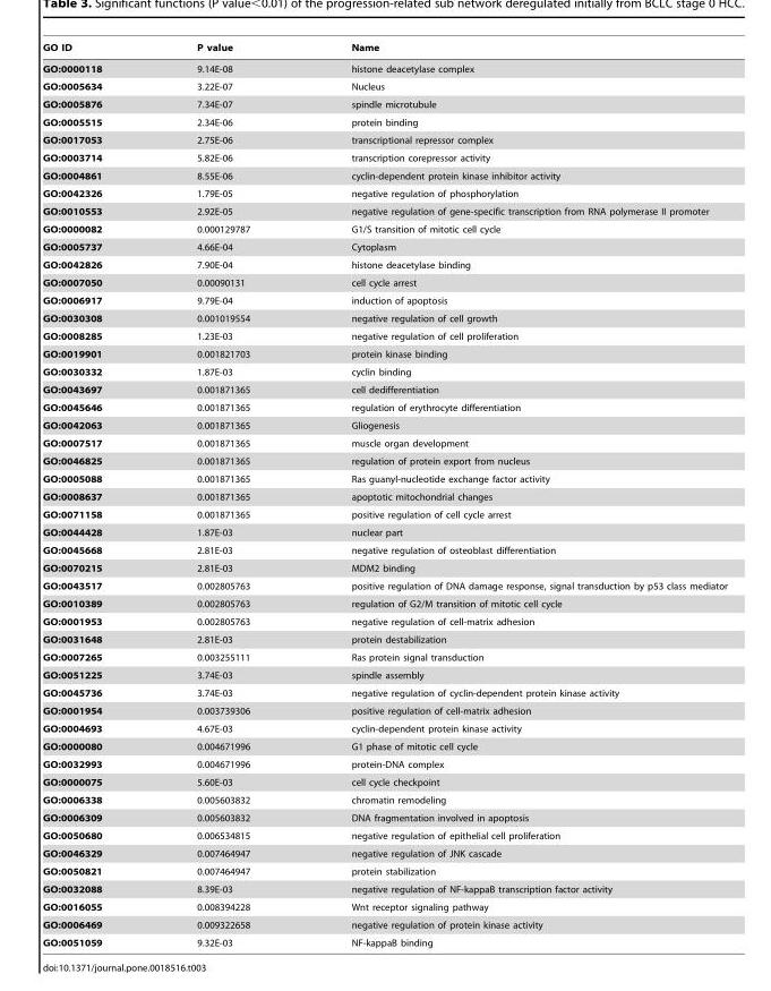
<table><thead><tr><td>GO ID</td><td>P value</td><td>Name</td></tr></thead><tbody><tr><td>GO:0000118</td><td>9.14E-08</td><td>histone deacetylase complex</td></tr><tr><td>GO:0005634</td><td>3.22E-07</td><td>Nucleus</td></tr><tr><td>GO:0005876</td><td>7.34E-07</td><td>spindle microtubule</td></tr><tr><td>GO:0005515</td><td>2.34E-06</td><td>protein binding</td></tr><tr><td>GO:0017053</td><td>2.75E-06</td><td>transcriptional repressor complex</td></tr><tr><td>GO:0003714</td><td>5.82E-06</td><td>transcription corepressor activity</td></tr><tr><td>GO:0004861</td><td>8.55E-06</td><td>cyclin-dependent protein kinase inhibitor activity</td></tr><tr><td>GO:0042326</td><td>1.79E-05</td><td>negative regulation of phosphorylation</td></tr><tr><td>GO:0010553</td><td>2.92E-05</td><td>negative regulation of gene-specific transcription from RNA polymerase II promoter</td></tr><tr><td>GO:0000082</td><td>0.000129787</td><td>G1/S transition of mitotic cell cycle</td></tr><tr><td>GO:0005737</td><td>4.66E-04</td><td>Cytoplasm</td></tr><tr><td>GO:0042826</td><td>7.90E-04</td><td>histone deacetylase binding</td></tr><tr><td>GO:0007050</td><td>0.00090131</td><td>cell cycle arrest</td></tr><tr><td>GO:0006917</td><td>9.79E-04</td><td>induction of apoptosis</td></tr><tr><td>GO:0030308</td><td>0.001019554</td><td>negative regulation of cell growth</td></tr><tr><td>GO:0008285</td><td>1.23E-03</td><td>negative regulation of cell proliferation</td></tr><tr><td>GO:0019901</td><td>0.001821703</td><td>protein kinase binding</td></tr><tr><td>GO:0030332</td><td>1.87E-03</td><td>cyclin binding</td></tr><tr><td>GO:0043697</td><td>0.001871365</td><td>cell dedifferentiation</td></tr><tr><td>GO:0045646</td><td>0.001871365</td><td>regulation of erythrocyte differentiation</td></tr><tr><td>GO:0042063</td><td>0.001871365</td><td>Gliogenesis</td></tr><tr><td>GO:0007517</td><td>0.001871365</td><td>muscle organ development</td></tr><tr><td>GO:0046825</td><td>0.001871365</td><td>regulation of protein export from nucleus</td></tr><tr><td>GO:0005088</td><td>0.001871365</td><td>Ras guanyl-nucleotide exchange factor activity</td></tr><tr><td>GO:0008637</td><td>0.001871365</td><td>apoptotic mitochondrial changes</td></tr><tr><td>GO:0071158</td><td>0.001871365</td><td>positive regulation of cell cycle arrest</td></tr><tr><td>GO:0044428</td><td>1.87E-03</td><td>nuclear part</td></tr><tr><td>GO:0045668</td><td>2.81E-03</td><td>negative regulation of osteoblast differentiation</td></tr><tr><td>GO:0070215</td><td>2.81E-03</td><td>MDM2 binding</td></tr><tr><td>GO:0043517</td><td>0.002805763</td><td>positive regulation of DNA damage response, signal transduction by p53 class mediator</td></tr><tr><td>GO:0010389</td><td>0.002805763</td><td>regulation of G2/M transition of mitotic cell cycle</td></tr><tr><td>GO:0001953</td><td>0.002805763</td><td>negative regulation of cell-matrix adhesion</td></tr><tr><td>GO:0031648</td><td>2.81E-03</td><td>protein destabilization</td></tr><tr><td>GO:0007265</td><td>0.003255111</td><td>Ras protein signal transduction</td></tr><tr><td>GO:0051225</td><td>3.74E-03</td><td>spindle assembly</td></tr><tr><td>GO:0045736</td><td>3.74E-03</td><td>negative regulation of cyclin-dependent protein kinase activity</td></tr><tr><td>GO:0001954</td><td>0.003739306</td><td>positive regulation of cell-matrix adhesion</td></tr><tr><td>GO:0004693</td><td>4.67E-03</td><td>cyclin-dependent protein kinase activity</td></tr><tr><td>GO:0000080</td><td>0.004671996</td><td>G1 phase of mitotic cell cycle</td></tr><tr><td>GO:0032993</td><td>0.004671996</td><td>protein-DNA complex</td></tr><tr><td>GO:0000075</td><td>5.60E-03</td><td>cell cycle checkpoint</td></tr><tr><td>GO:0006338</td><td>0.005603832</td><td>chromatin remodeling</td></tr><tr><td>GO:0006309</td><td>0.005603832</td><td>DNA fragmentation involved in apoptosis</td></tr><tr><td>GO:0050680</td><td>0.006534815</td><td>negative regulation of epithelial cell proliferation</td></tr><tr><td>GO:0046329</td><td>0.007464947</td><td>negative regulation of JNK cascade</td></tr><tr><td>GO:0050821</td><td>0.007464947</td><td>protein stabilization</td></tr><tr><td>GO:0032088</td><td>8.39E-03</td><td>negative regulation of NF-kappaB transcription factor activity</td></tr><tr><td>GO:0016055</td><td>0.008394228</td><td>Wnt receptor signaling pathway</td></tr><tr><td>GO:0006469</td><td>0.009322658</td><td>negative regulation of protein kinase activity</td></tr><tr><td>GO:0051059</td><td>9.32E-03</td><td>NF-kappaB binding</td></tr></tbody></table>